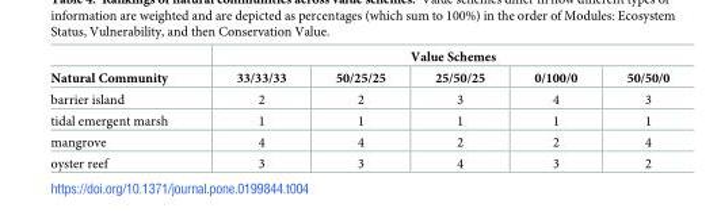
<table><thead><tr><td rowspan="2">Natural Community</td><td colspan="5">Value Schemes</td></tr><tr><td>33/33/33</td><td>50/25/25</td><td>25/50/25</td><td>0/100/0</td><td>50/50/0</td></tr></thead><tbody><tr><td>barrier island</td><td>2</td><td>2</td><td>3</td><td>4</td><td>3</td></tr><tr><td>tidal emergent marsh</td><td>1</td><td>1</td><td>1</td><td>1</td><td>1</td></tr><tr><td>mangrove</td><td>4</td><td>4</td><td>2</td><td>2</td><td>4</td></tr><tr><td>oyster reef</td><td>3</td><td>3</td><td>4</td><td>3</td><td>2</td></tr></tbody></table>